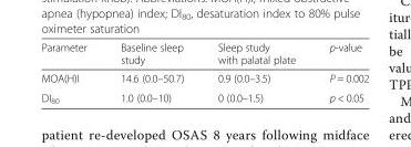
<table><thead><tr><td>Parameter</td><td>Baseline sleep study</td><td>Sleep study with palatal plate</td><td>p-value</td></tr></thead><tbody><tr><td>MOA(H)I</td><td>14.6 (0.0–50.7)</td><td>0.9 (0.0–3.5)</td><td>P = 0.002</td></tr><tr><td>DI<sub>80</sub></td><td>1.0 (0.0–10)</td><td>0 (0.0–1.5)</td><td>p &lt; 0.05</td></tr></tbody></table>